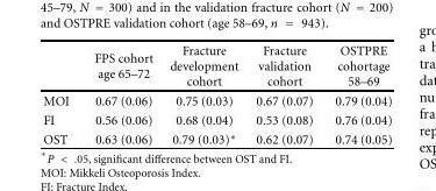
<table><thead><tr><td></td><td>FPS cohort age 65–72</td><td>Fracture development cohort</td><td>Fracture validation cohort</td><td>OSTPRE cohortage 58–69</td></tr></thead><tbody><tr><td>MOI</td><td>0.67 (0.06)</td><td>0.75 (0.03)</td><td>0.67 (0.07)</td><td>0.79 (0.04)</td></tr><tr><td>FI</td><td>0.56 (0.06)</td><td>0.68 (0.04)</td><td>0.53 (0.08)</td><td>0.76 (0.04)</td></tr><tr><td>OST</td><td>0.63 (0.06)</td><td>0.79 (0.03)∗</td><td>0.62 (0.07)</td><td>0.74 (0.05)</td></tr></tbody></table>